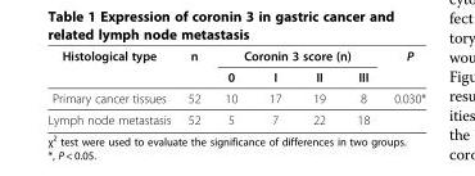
<table><thead><tr><td rowspan="2">Histological type</td><td rowspan="2">n</td><td colspan="4">Coronin 3 score (n)</td><td rowspan="2">P</td></tr><tr><td>0</td><td>I</td><td>II</td><td>III</td></tr></thead><tbody><tr><td>Primary cancer tissues</td><td>52</td><td>10</td><td>17</td><td>19</td><td>8</td><td>0.030*</td></tr><tr><td>Lymph node metastasis</td><td>52</td><td>5</td><td>7</td><td>22</td><td>18</td><td></td></tr></tbody></table>